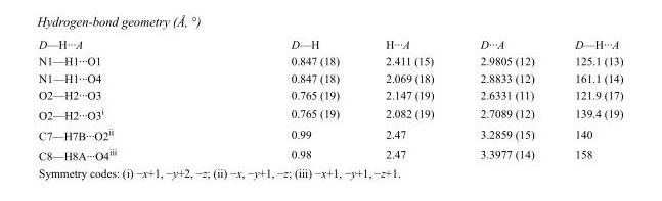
<table><tbody><tr><td>D—H···A</td><td>D—H</td><td>H···A</td><td>D···A</td><td>D—H···A</td></tr><tr><td>N1—H1···O1</td><td>0.847 (18)</td><td>2.411 (15)</td><td>2.9805 (12)</td><td>125.1 (13)</td></tr><tr><td>N1—H1···O4</td><td>0.847 (18)</td><td>2.069 (18)</td><td>2.8833 (12)</td><td>161.1 (14)</td></tr><tr><td>O2—H2···O3</td><td>0.765 (19)</td><td>2.147 (19)</td><td>2.6331 (11)</td><td>121.9 (17)</td></tr><tr><td>O2—H2···O3<sup>i</sup></td><td>0.765 (19)</td><td>2.082 (19)</td><td>2.7089 (12)</td><td>139.4 (19)</td></tr><tr><td>C7—H7B···O2<sup>ii</sup></td><td>0.99</td><td>2.47</td><td>3.2859 (15)</td><td>140</td></tr><tr><td>C8—H8A···O4<sup>iii</sup></td><td>0.98</td><td>2.47</td><td>3.3977 (14)</td><td>158</td></tr></tbody></table>